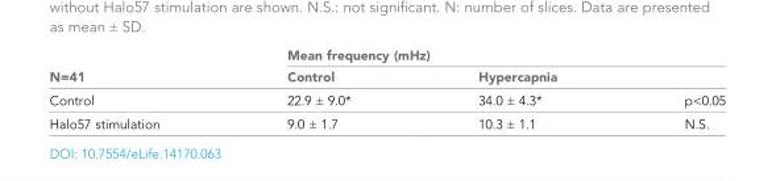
<table><thead><tr><td rowspan="2">N=41</td><td colspan="3">Mean frequency (mHz)</td></tr><tr><td>Control</td><td>Hypercapnia</td><td></td></tr></thead><tbody><tr><td>Control</td><td>22.9 ± 9.0*</td><td>34.0 ± 4.3*</td><td>p&lt;0.05</td></tr><tr><td>Halo57 stimulation</td><td>9.0 ± 1.7</td><td>10.3 ± 1.1</td><td>N.S.</td></tr></tbody></table>